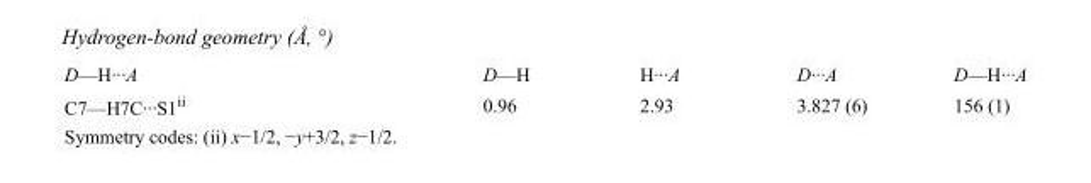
<table><tbody><tr><td>D—H···A</td><td>D—H</td><td>H···A</td><td>D···A</td><td>D—H···A</td></tr><tr><td>C7—H7C···S1<sup>ii</sup></td><td>0.96</td><td>2.93</td><td>3.827 (6)</td><td>156 (1)</td></tr></tbody></table>